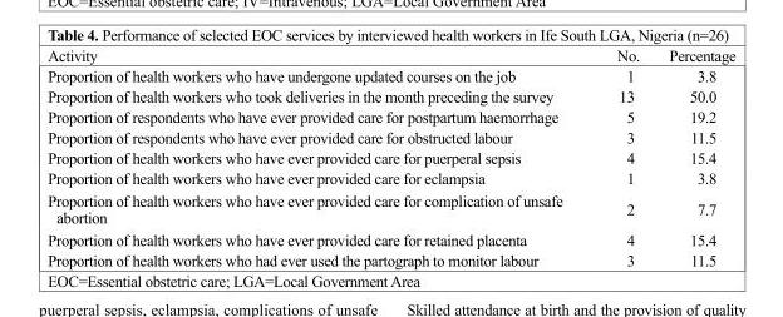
<table><thead><tr><td>Activity</td><td>No.</td><td>Percentage</td></tr></thead><tbody><tr><td>Proportion of health workers who have undergone updated courses on the job</td><td>1</td><td>3.8</td></tr><tr><td>Proportion of health workers who took deliveries in the month preceding the survey</td><td>13</td><td>50.0</td></tr><tr><td>Proportion of respondents who have ever provided care for postpartum haemorrhage</td><td>5</td><td>19.2</td></tr><tr><td>Proportion of respondents who have ever provided care for obstructed labour</td><td>3</td><td>11.5</td></tr><tr><td>Proportion of health workers who have ever provided care for puerperal sepsis</td><td>4</td><td>15.4</td></tr><tr><td>Proportion of health workers who have ever provided care for eclampsia</td><td>1</td><td>3.8</td></tr><tr><td>Proportion of health workers who have ever provided care for complication of unsafe abortion</td><td>2</td><td>7.7</td></tr><tr><td>Proportion of health workers who have ever provided care for retained placenta</td><td>4</td><td>15.4</td></tr><tr><td>Proportion of health workers who had ever used the partograph to monitor labour</td><td>3</td><td>11.5</td></tr></tbody></table>